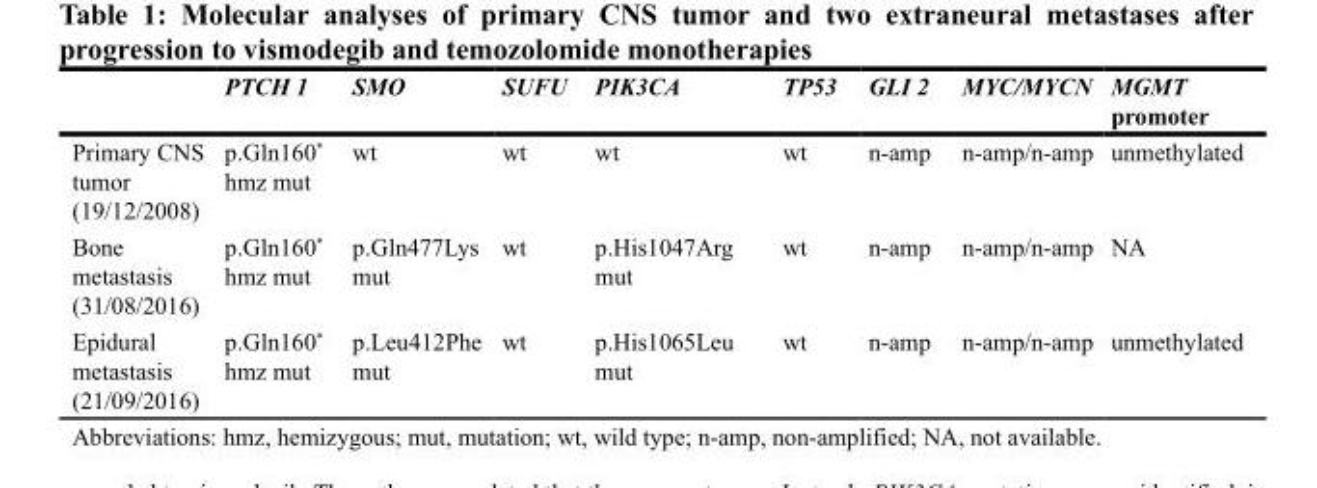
<table><thead><tr><td></td><td>PTCH 1</td><td>SMO</td><td>SUFU</td><td>PIK3CA</td><td>TP53</td><td>GLI 2</td><td>MYC/MYCN</td><td>MGMT promoter</td></tr></thead><tbody><tr><td>Primary CNS tumor (19/12/2008)</td><td>p.Gln160* hmz mut</td><td>wt</td><td>wt</td><td>wt</td><td>wt</td><td>n-amp</td><td>n-amp/n-amp</td><td>unmethylated</td></tr><tr><td>Bone metastasis (31/08/2016)</td><td>p.Gln160* hmz mut</td><td>p.Gln477Lys mut</td><td>wt</td><td>p.His1047Arg mut</td><td>wt</td><td>n-amp</td><td>n-amp/n-amp</td><td>NA</td></tr><tr><td>Epidural metastasis (21/09/2016)</td><td>p.Gln160* hmz mut</td><td>p.Leu412Phe mut</td><td>wt</td><td>p.His1065Leu mut</td><td>wt</td><td>n-amp</td><td>n-amp/n-amp</td><td>unmethylated</td></tr></tbody></table>